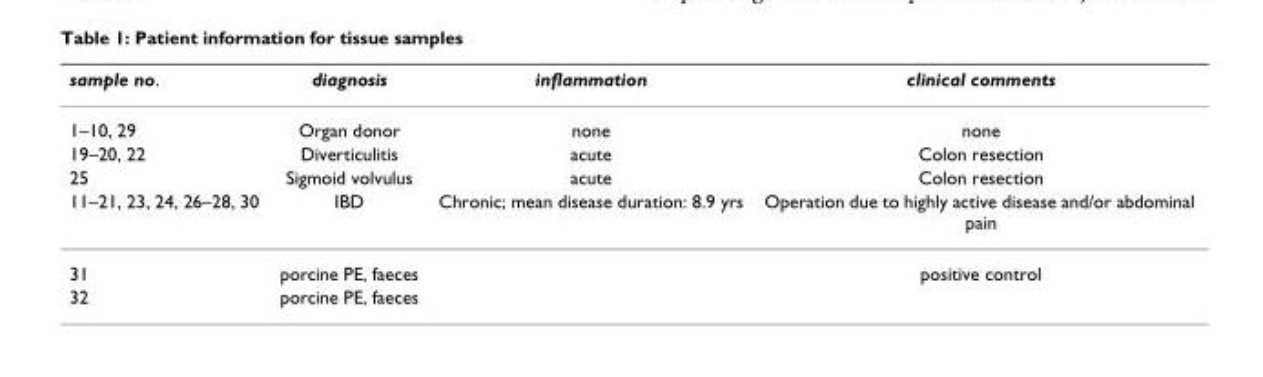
<table><thead><tr><td>sample no.</td><td>diagnosis</td><td>inflammation</td><td>clinical comments</td></tr></thead><tbody><tr><td>1–10, 29</td><td>Organ donor</td><td>none</td><td>none</td></tr><tr><td>19–20, 22</td><td>Diverticulitis</td><td>acute</td><td>Colon resection</td></tr><tr><td>25</td><td>Sigmoid volvulus</td><td>acute</td><td>Colon resection</td></tr><tr><td>11–21, 23, 24, 26–28, 30</td><td>IBD</td><td>Chronic; mean disease duration: 8.9 yrs</td><td>Operation due to highly active disease and/or abdominal pain</td></tr><tr><td>31</td><td>porcine PE, faeces</td><td></td><td>positive control</td></tr><tr><td>32</td><td>porcine PE, faeces</td><td></td><td></td></tr></tbody></table>